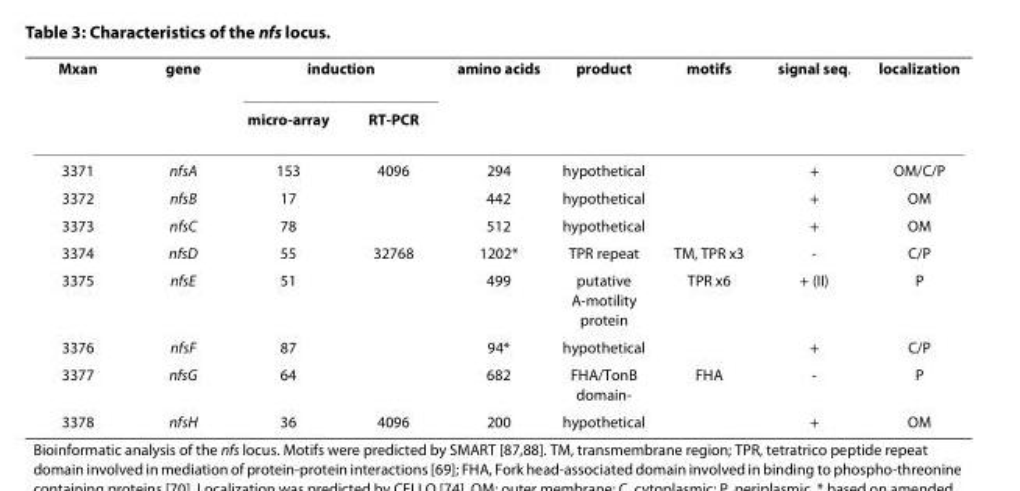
<table><thead><tr><td rowspan="2">Mxan</td><td rowspan="2">gene</td><td colspan="2">induction</td><td rowspan="2">amino acids</td><td rowspan="2">product</td><td rowspan="2">motifs</td><td rowspan="2">signal seq.</td><td rowspan="2">localization</td></tr><tr><td>micro-array</td><td>RT-PCR</td></tr></thead><tbody><tr><td>3371</td><td>nfsA</td><td>153</td><td>4096</td><td>294</td><td>hypothetical</td><td></td><td>+</td><td>OM/C/P</td></tr><tr><td>3372</td><td>nfsB</td><td>17</td><td></td><td>442</td><td>hypothetical</td><td></td><td>+</td><td>OM</td></tr><tr><td>3373</td><td>nfsC</td><td>78</td><td></td><td>512</td><td>hypothetical</td><td></td><td>+</td><td>OM</td></tr><tr><td>3374</td><td>nfsD</td><td>55</td><td>32768</td><td>1202*</td><td>TPR repeat</td><td>TM, TPR x3</td><td>-</td><td>C/P</td></tr><tr><td>3375</td><td>nfsE</td><td>51</td><td></td><td>499</td><td>putative A-motility protein</td><td>TPR x6</td><td>+ (II)</td><td>P</td></tr><tr><td>3376</td><td>nfsF</td><td>87</td><td></td><td>94*</td><td>hypothetical</td><td></td><td>+</td><td>C/P</td></tr><tr><td>3377</td><td>nfsG</td><td>64</td><td></td><td>682</td><td>FHA/TonB domain-</td><td>FHA</td><td>-</td><td>P</td></tr><tr><td>3378</td><td>nfsH</td><td>36</td><td>4096</td><td>200</td><td>hypothetical</td><td></td><td>+</td><td>OM</td></tr></tbody></table>